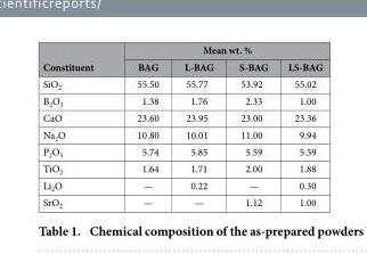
<table><thead><tr><td rowspan="2">Constituent</td><td colspan="4">Mean wt. %</td></tr><tr><td>BAG</td><td>L-BAG</td><td>S-BAG</td><td>LS-BAG</td></tr></thead><tbody><tr><td>SiO<sub>2</sub></td><td>55.50</td><td>55.77</td><td>53.92</td><td>55.02</td></tr><tr><td>B<sub>2</sub>O<sub>3</sub></td><td>1.38</td><td>1.76</td><td>2.33</td><td>1.00</td></tr><tr><td>CaO</td><td>23.60</td><td>23.95</td><td>23.00</td><td>23.36</td></tr><tr><td>Na<sub>2</sub>O</td><td>10.80</td><td>10.01</td><td>11.00</td><td>9.94</td></tr><tr><td>P<sub>2</sub>O<sub>5</sub></td><td>5.74</td><td>5.85</td><td>5.59</td><td>5.59</td></tr><tr><td>TiO<sub>2</sub></td><td>1.64</td><td>1.71</td><td>2.00</td><td>1.88</td></tr><tr><td>Li<sub>2</sub>O</td><td>—</td><td>0.22</td><td>—</td><td>0.30</td></tr><tr><td>SrO<sub>2</sub></td><td>—</td><td>—</td><td>1.12</td><td>1.00</td></tr></tbody></table>